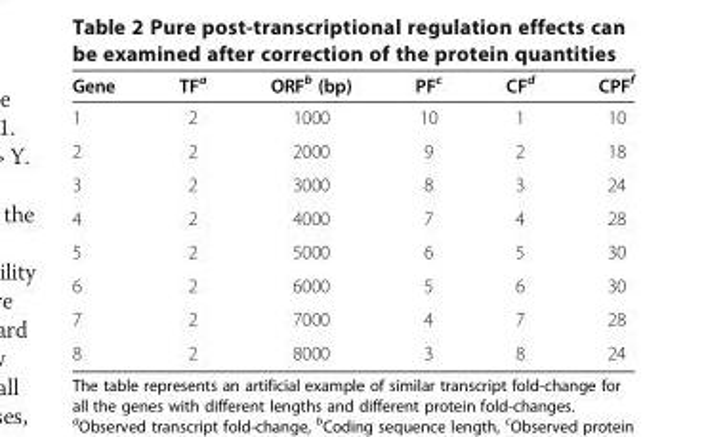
<table><thead><tr><td>Gene</td><td>TF<sup>a</sup></td><td>ORF<sup>b</sup> (bp)</td><td>PF<sup>c</sup></td><td>CF<sup>d</sup></td><td>CPF<sup>f</sup></td></tr></thead><tbody><tr><td>1</td><td>2</td><td>1000</td><td>10</td><td>1</td><td>10</td></tr><tr><td>2</td><td>2</td><td>2000</td><td>9</td><td>2</td><td>18</td></tr><tr><td>3</td><td>2</td><td>3000</td><td>8</td><td>3</td><td>24</td></tr><tr><td>4</td><td>2</td><td>4000</td><td>7</td><td>4</td><td>28</td></tr><tr><td>5</td><td>2</td><td>5000</td><td>6</td><td>5</td><td>30</td></tr><tr><td>6</td><td>2</td><td>6000</td><td>5</td><td>6</td><td>30</td></tr><tr><td>7</td><td>2</td><td>7000</td><td>4</td><td>7</td><td>28</td></tr><tr><td>8</td><td>2</td><td>8000</td><td>3</td><td>8</td><td>24</td></tr></tbody></table>